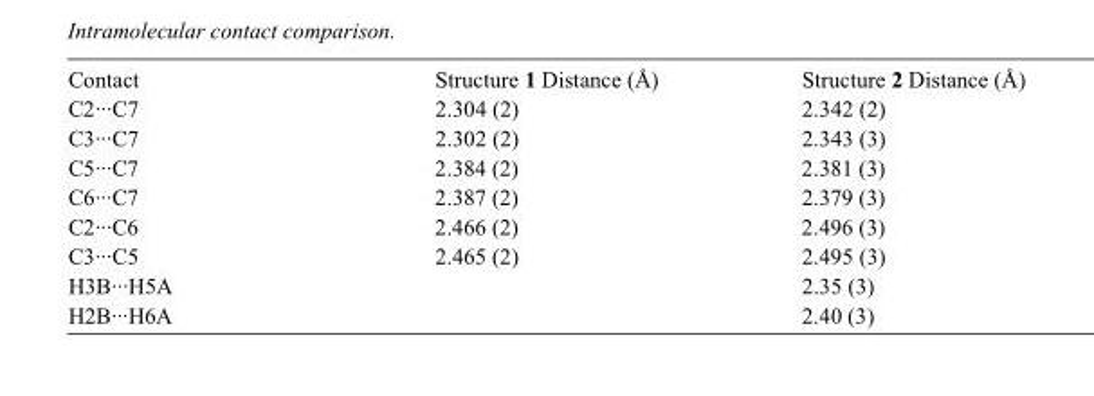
<table><tbody><tr><td>Contact</td><td>Structure 1 Distance (Å)</td><td>Structure 2 Distance (Å)</td></tr><tr><td>C2···C7</td><td>2.304 (2)</td><td>2.342 (2)</td></tr><tr><td>C3···C7</td><td>2.302 (2)</td><td>2.343 (3)</td></tr><tr><td>C5···C7</td><td>2.384 (2)</td><td>2.381 (3)</td></tr><tr><td>C6···C7</td><td>2.387 (2)</td><td>2.379 (3)</td></tr><tr><td>C2···C6</td><td>2.466 (2)</td><td>2.496 (3)</td></tr><tr><td>C3···C5</td><td>2.465 (2)</td><td>2.495 (3)</td></tr><tr><td>H3B···H5A</td><td></td><td>2.35 (3)</td></tr><tr><td>H2B···H6A</td><td></td><td>2.40 (3)</td></tr></tbody></table>